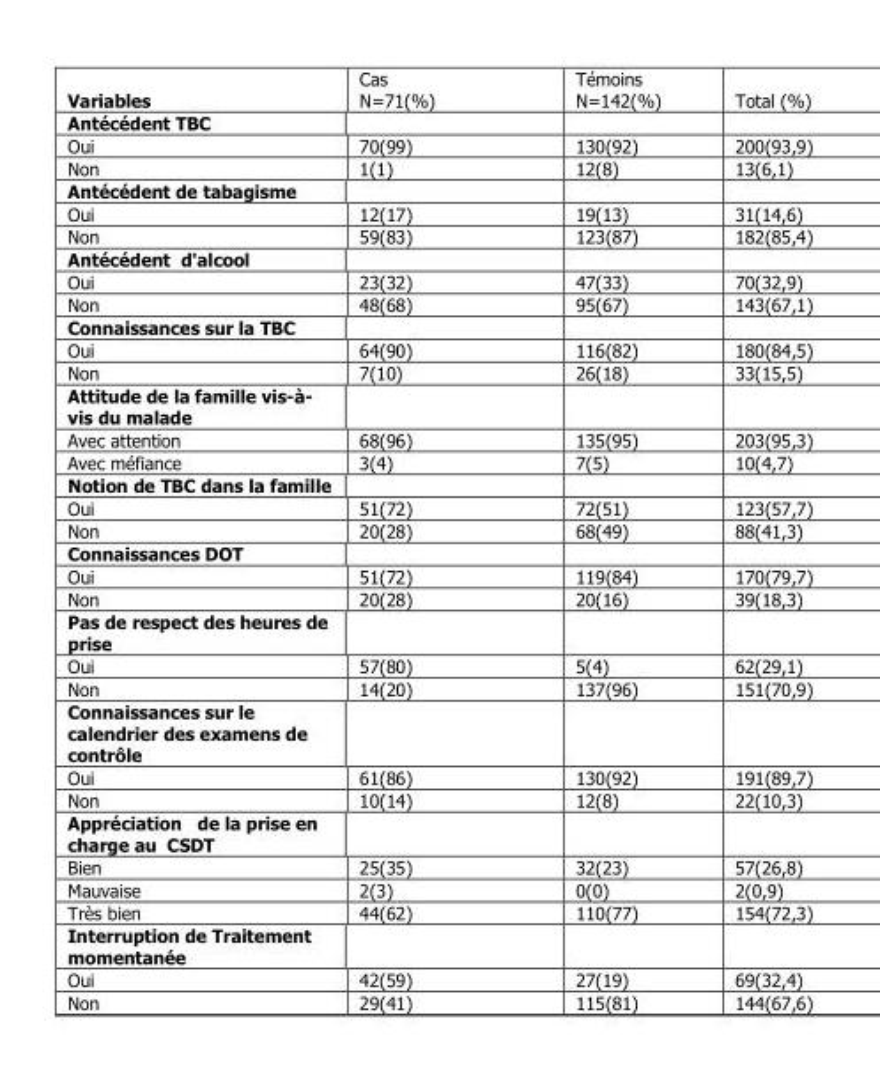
<table><thead><tr><td>Variables</td><td>Cas N=71(%)</td><td>Témoins N=142(%)</td><td>Total (%)</td></tr></thead><tbody><tr><td colspan="4">Antécédent TBC</td></tr><tr><td>Oui</td><td>70(99)</td><td>130(92)</td><td>200(93,9)</td></tr><tr><td>Non</td><td>1(1)</td><td>12(8)</td><td>13(6,1)</td></tr><tr><td colspan="4">Antécédent de tabagisme</td></tr><tr><td>Oui</td><td>12(17)</td><td>19(13)</td><td>31(14,6)</td></tr><tr><td>Non</td><td>59(83)</td><td>123(87)</td><td>182(85,4)</td></tr><tr><td colspan="4">Antécédent d&#x27;alcool</td></tr><tr><td>Oui</td><td>23(32)</td><td>47(33)</td><td>70(32,9)</td></tr><tr><td>Non</td><td>48(68)</td><td>95(67)</td><td>143(67,1)</td></tr><tr><td colspan="4">Connaissances sur la TBC</td></tr><tr><td>Oui</td><td>64(90)</td><td>116(82)</td><td>180(84,5)</td></tr><tr><td>Non</td><td>7(10)</td><td>26(18)</td><td>33(15,5)</td></tr><tr><td colspan="4">Attitude de la famille vis-à- vis du malade</td></tr><tr><td>Avec attention</td><td>68(96)</td><td>135(95)</td><td>203(95,3)</td></tr><tr><td>Avec méfiance</td><td>3(4)</td><td>7(5)</td><td>10(4,7)</td></tr><tr><td colspan="4">Notion de TBC dans la famille</td></tr><tr><td>Oui</td><td>51(72)</td><td>72(51)</td><td>123(57,7)</td></tr><tr><td>Non</td><td>20(28)</td><td>68(49)</td><td>88(41,3)</td></tr><tr><td colspan="4">Connaissances DOT</td></tr><tr><td>Oui</td><td>51(72)</td><td>119(84)</td><td>170(79,7)</td></tr><tr><td>Non</td><td>20(28)</td><td>20(16)</td><td>39(18,3)</td></tr><tr><td colspan="4">Pas de respect des heures de prise</td></tr><tr><td>Oui</td><td>57(80)</td><td>5(4)</td><td>62(29,1)</td></tr><tr><td>Non</td><td>14(20)</td><td>137(96)</td><td>151(70,9)</td></tr><tr><td colspan="4">Connaissances sur le calendrier des examens de contrôle</td></tr><tr><td>Oui</td><td>61(86)</td><td>130(92)</td><td>191(89,7)</td></tr><tr><td>Non</td><td>10(14)</td><td>12(8)</td><td>22(10,3)</td></tr><tr><td colspan="4">Appréciation de la prise en charge au CSDT</td></tr><tr><td>Bien</td><td>25(35)</td><td>32(23)</td><td>57(26,8)</td></tr><tr><td>Mauvaise</td><td>2(3)</td><td>0(0)</td><td>2(0,9)</td></tr><tr><td>Très bien</td><td>44(62)</td><td>110(77)</td><td>154(72,3)</td></tr><tr><td colspan="4">Interruption de Traitement momentanée</td></tr><tr><td>Oui</td><td>42(59)</td><td>27(19)</td><td>69(32,4)</td></tr><tr><td>Non</td><td>29(41)</td><td>115(81)</td><td>144(67,6)</td></tr></tbody></table>